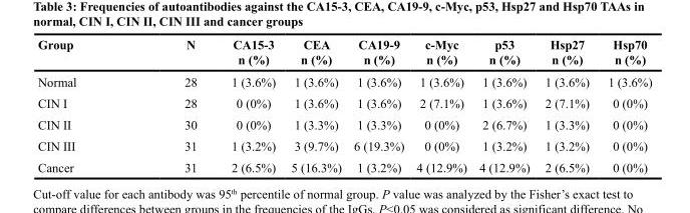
<table><thead><tr><td>Group</td><td>N</td><td>CA15-3 n (%)</td><td>CEA n (%)</td><td>CA19-9 n (%)</td><td>c-Myc n (%)</td><td>p53 n (%)</td><td>Hsp27 n (%)</td><td>Hsp70 n (%)</td></tr></thead><tbody><tr><td>Normal</td><td>28</td><td>1 (3.6%)</td><td>1 (3.6%)</td><td>1 (3.6%)</td><td>1 (3.6%)</td><td>1 (3.6%)</td><td>1 (3.6%)</td><td>1 (3.6%)</td></tr><tr><td>CIN I</td><td>28</td><td>0 (0%)</td><td>1 (3.6%)</td><td>1 (3.6%)</td><td>2 (7.1%)</td><td>1 (3.6%)</td><td>2 (7.1%)</td><td>0 (0%)</td></tr><tr><td>CIN II</td><td>30</td><td>0 (0%)</td><td>1 (3.3%)</td><td>1 (3.3%)</td><td>0 (0%)</td><td>2 (6.7%)</td><td>1 (3.3%)</td><td>0 (0%)</td></tr><tr><td>CIN III</td><td>31</td><td>1 (3.2%)</td><td>3 (9.7%)</td><td>6 (19.3%)</td><td>0 (0%)</td><td>1 (3.2%)</td><td>1 (3.2%)</td><td>0 (0%)</td></tr><tr><td>Cancer</td><td>31</td><td>2 (6.5%)</td><td>5 (16.3%)</td><td>1 (3.2%)</td><td>4 (12.9%)</td><td>4 (12.9%)</td><td>2 (6.5%)</td><td>0 (0%)</td></tr></tbody></table>